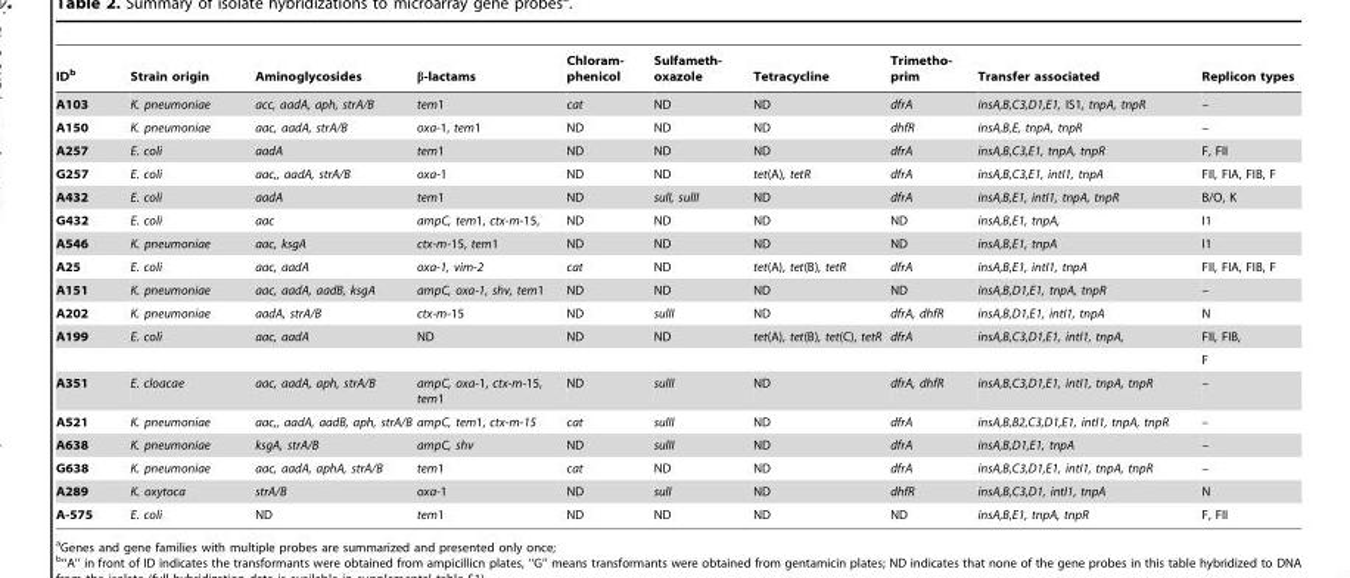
<table><thead><tr><td>ID<sup>b</sup></td><td>Strain origin</td><td>Aminoglycosides</td><td>β-lactams</td><td>Chloram- phenicol</td><td>Sulfameth- oxazole</td><td>Tetracycline</td><td>Trimetho- prim</td><td>Transfer associated</td><td>Replicon types</td></tr></thead><tbody><tr><td>A103</td><td>K. pneumoniae</td><td>acc, aadA, aph, strA/B</td><td>tem1</td><td>cat</td><td>ND</td><td>ND</td><td>dfrA</td><td>insA,B,C3,D1,E1, IS1, tnpA, tnpR</td><td>–</td></tr><tr><td>A150</td><td>K. pneumoniae</td><td>aac, aadA, strA/B</td><td>oxa-1, tem1</td><td>ND</td><td>ND</td><td>ND</td><td>dhfR</td><td>insA,B,E, tnpA, tnpR</td><td>–</td></tr><tr><td>A257</td><td>E. coli</td><td>aadA</td><td>tem1</td><td>ND</td><td>ND</td><td>ND</td><td>dfrA</td><td>insA,B,C3,E1, tnpA, tnpR</td><td>F, FII</td></tr><tr><td>G257</td><td>E. coli</td><td>aac,, aadA, strA/B</td><td>oxa-1</td><td>ND</td><td>ND</td><td>tet(A), tetR</td><td>dfrA</td><td>insA,B,C3,E1, intI1, tnpA</td><td>FII, FIA, FIB, F</td></tr><tr><td>A432</td><td>E. coli</td><td>aadA</td><td>tem1</td><td>ND</td><td>sulI, sulII</td><td>ND</td><td>dfrA</td><td>insA,B,E1, intI1, tnpA, tnpR</td><td>B/O, K</td></tr><tr><td>G432</td><td>E. coli</td><td>aac</td><td>ampC, tem1, ctx-m-15,</td><td>ND</td><td>ND</td><td>ND</td><td>ND</td><td>insA,B,E1, tnpA,</td><td>I1</td></tr><tr><td>A546</td><td>K. pneumoniae</td><td>aac, ksgA</td><td>ctx-m-15, tem1</td><td>ND</td><td>ND</td><td>ND</td><td>ND</td><td>insA,B,E1, tnpA</td><td>I1</td></tr><tr><td>A25</td><td>E. coli</td><td>aac, aadA</td><td>oxa-1, vim-2</td><td>cat</td><td>ND</td><td>tet(A), tet(B), tetR</td><td>dfrA</td><td>insA,B,E1, intI1, tnpA</td><td>FII, FIA, FIB, F</td></tr><tr><td>A151</td><td>K. pneumoniae</td><td>aac, aadA, aadB, ksgA</td><td>ampC, oxa-1, shv, tem1</td><td>ND</td><td>ND</td><td>ND</td><td>ND</td><td>insA,B,D1,E1, tnpA, tnpR</td><td>–</td></tr><tr><td>A202</td><td>K. pneumoniae</td><td>aadA, strA/B</td><td>ctx-m-15</td><td>ND</td><td>sulII</td><td>ND</td><td>dfrA, dhfR</td><td>insA,B,D1,E1, intI1, tnpA</td><td>N</td></tr><tr><td rowspan="2">A199</td><td>E. coli</td><td>aac, aadA</td><td>ND</td><td>ND</td><td>ND</td><td>tet(A), tet(B), tet(C), tetR</td><td>dfrA</td><td>insA,B,C3,D1,E1, intI1, tnpA,</td><td>FII, FIB,</td></tr><tr><td></td><td></td><td></td><td></td><td></td><td></td><td></td><td></td><td>F</td></tr><tr><td>A351</td><td>E. cloacae</td><td>aac, aadA, aph, strA/B</td><td>ampC, oxa-1, ctx-m-15, tem1</td><td>ND</td><td>sulII</td><td>ND</td><td>dfrA, dhfR</td><td>insA,B,C3,D1,E1, intI1, tnpA, tnpR</td><td>–</td></tr><tr><td>A521</td><td>K. pneumoniae</td><td>aac,, aadA, aadB, aph, strA/B</td><td>ampC, tem1, ctx-m-15</td><td>cat</td><td>sulII</td><td>ND</td><td>dfrA</td><td>insA,B,B2,C3,D1,E1, intI1, tnpA, tnpR</td><td>–</td></tr><tr><td>A638</td><td>K. pneumoniae</td><td>ksgA, strA/B</td><td>ampC, shv</td><td>ND</td><td>sulII</td><td>ND</td><td>dfrA</td><td>insA,B,D1,E1, tnpA</td><td>–</td></tr><tr><td>G638</td><td>K. pneumoniae</td><td>aac, aadA, aphA, strA/B</td><td>tem1</td><td>cat</td><td>ND</td><td>ND</td><td>dfrA</td><td>insA,B,C3,D1,E1, intI1, tnpA, tnpR</td><td>–</td></tr><tr><td>A289</td><td>K. oxytoca</td><td>strA/B</td><td>oxa-1</td><td>ND</td><td>sulI</td><td>ND</td><td>dhfR</td><td>insA,B,C3,D1, intI1, tnpA</td><td>N</td></tr><tr><td>A-575</td><td>E. coli</td><td>ND</td><td>tem1</td><td>ND</td><td>ND</td><td>ND</td><td>ND</td><td>insA,B,E1, tnpA, tnpR</td><td>F, FII</td></tr></tbody></table>